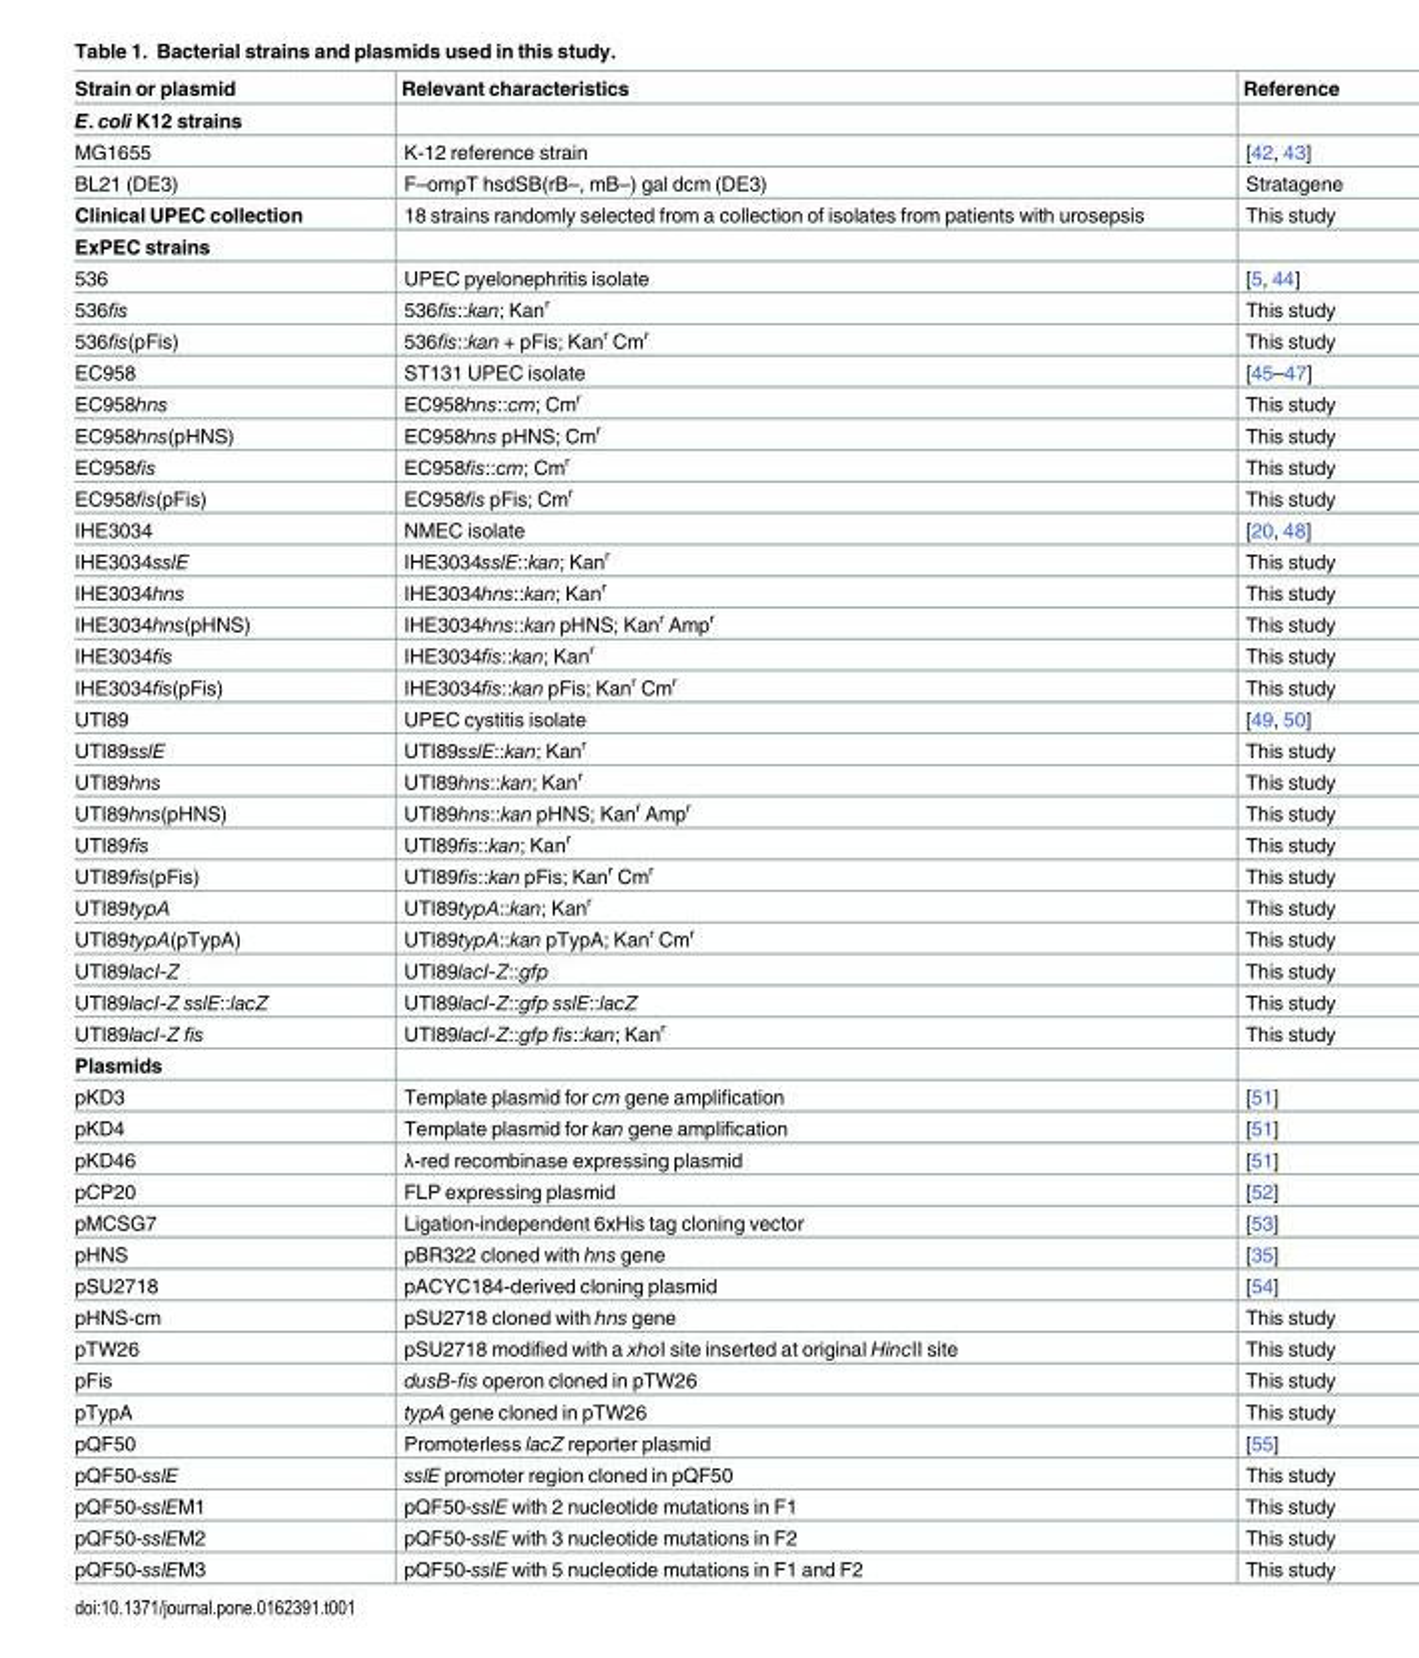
<table><thead><tr><td>Strain or plasmid</td><td>Relevant characteristics</td><td>Reference</td></tr></thead><tbody><tr><td colspan="3">E. coli K12 strains</td></tr><tr><td>MG1655</td><td>K-12 reference strain</td><td>[42, 43]</td></tr><tr><td>BL21 (DE3)</td><td>F–ompT hsdSB(rB–, mB–) gal dcm (DE3)</td><td>Stratagene</td></tr><tr><td>Clinical UPEC collection</td><td>18 strains randomly selected from a collection of isolates from patients with urosepsis</td><td>This study</td></tr><tr><td colspan="3">ExPEC strains</td></tr><tr><td>536</td><td>UPEC pyelonephritis isolate</td><td>[5, 44]</td></tr><tr><td>536fis</td><td>536fis::kan; Kan<sup>r</sup></td><td>This study</td></tr><tr><td>536fis(pFis)</td><td>536fis::kan + pFis; Kan<sup>r</sup> Cm<sup>r</sup></td><td>This study</td></tr><tr><td>EC958</td><td>ST131 UPEC isolate</td><td>[45–47]</td></tr><tr><td>EC958hns</td><td>EC958hns::cm; Cm<sup>r</sup></td><td>This study</td></tr><tr><td>EC958hns(pHNS)</td><td>EC958hns pHNS; Cm<sup>r</sup></td><td>This study</td></tr><tr><td>EC958fis</td><td>EC958fis::cm; Cm<sup>r</sup></td><td>This study</td></tr><tr><td>EC958fis(pFis)</td><td>EC958fis pFis; Cm<sup>r</sup></td><td>This study</td></tr><tr><td>IHE3034</td><td>NMEC isolate</td><td>[20, 48]</td></tr><tr><td>IHE3034sslE</td><td>IHE3034sslE::kan; Kan<sup>r</sup></td><td>This study</td></tr><tr><td>IHE3034hns</td><td>IHE3034hns::kan; Kan<sup>r</sup></td><td>This study</td></tr><tr><td>IHE3034hns(pHNS)</td><td>IHE3034hns::kan pHNS; Kan<sup>r</sup> Amp<sup>r</sup></td><td>This study</td></tr><tr><td>IHE3034fis</td><td>IHE3034fis::kan; Kan<sup>r</sup></td><td>This study</td></tr><tr><td>IHE3034fis(pFis)</td><td>IHE3034fis::kan pFis; Kan<sup>r</sup> Cm<sup>r</sup></td><td>This study</td></tr><tr><td>UTI89</td><td>UPEC cystitis isolate</td><td>[49, 50]</td></tr><tr><td>UTI89sslE</td><td>UTI89sslE::kan; Kan<sup>r</sup></td><td>This study</td></tr><tr><td>UTI89hns</td><td>UTI89hns::kan; Kan<sup>r</sup></td><td>This study</td></tr><tr><td>UTI89hns(pHNS)</td><td>UTI89hns::kan pHNS; Kan<sup>r</sup> Amp<sup>r</sup></td><td>This study</td></tr><tr><td>UTI89fis</td><td>UTI89fis::kan; Kan<sup>r</sup></td><td>This study</td></tr><tr><td>UTI89fis(pFis)</td><td>UTI89fis::kan pFis; Kan<sup>r</sup> Cm<sup>r</sup></td><td>This study</td></tr><tr><td>UTI89typA</td><td>UTI89typA::kan; Kan<sup>r</sup></td><td>This study</td></tr><tr><td>UTI89typA(pTypA)</td><td>UTI89typA::kan pTypA; Kan<sup>r</sup> Cm<sup>r</sup></td><td>This study</td></tr><tr><td>UTI89lacI-Z</td><td>UTI89lacI-Z::gfp</td><td>This study</td></tr><tr><td>UTI89lacI-Z sslE::lacZ</td><td>UTI89lacI-Z::gfp sslE::lacZ</td><td>This study</td></tr><tr><td>UTI89lacI-Z fis</td><td>UTI89lacI-Z::gfp fis::kan; Kan<sup>r</sup></td><td>This study</td></tr><tr><td colspan="3">Plasmids</td></tr><tr><td>pKD3</td><td>Template plasmid for cm gene amplification</td><td>[51]</td></tr><tr><td>pKD4</td><td>Template plasmid for kan gene amplification</td><td>[51]</td></tr><tr><td>pKD46</td><td>λ-red recombinase expressing plasmid</td><td>[51]</td></tr><tr><td>pCP20</td><td>FLP expressing plasmid</td><td>[52]</td></tr><tr><td>pMCSG7</td><td>Ligation-independent 6xHis tag cloning vector</td><td>[53]</td></tr><tr><td>pHNS</td><td>pBR322 cloned with hns gene</td><td>[35]</td></tr><tr><td>pSU2718</td><td>pACYC184-derived cloning plasmid</td><td>[54]</td></tr><tr><td>pHNS-cm</td><td>pSU2718 cloned with hns gene</td><td>This study</td></tr><tr><td>pTW26</td><td>pSU2718 modified with a xhoI site inserted at original HincII site</td><td>This study</td></tr><tr><td>pFis</td><td>dusB-fis operon cloned in pTW26</td><td>This study</td></tr><tr><td>pTypA</td><td>typA gene cloned in pTW26</td><td>This study</td></tr><tr><td>pQF50</td><td>Promoterless lacZ reporter plasmid</td><td>[55]</td></tr><tr><td>pQF50-sslE</td><td>sslE promoter region cloned in pQF50</td><td>This study</td></tr><tr><td>pQF50-sslEM1</td><td>pQF50-sslE with 2 nucleotide mutations in F1</td><td>This study</td></tr><tr><td>pQF50-sslEM2</td><td>pQF50-sslE with 3 nucleotide mutations in F2</td><td>This study</td></tr><tr><td>pQF50-sslEM3</td><td>pQF50-sslE with 5 nucleotide mutations in F1 and F2</td><td>This study</td></tr></tbody></table>